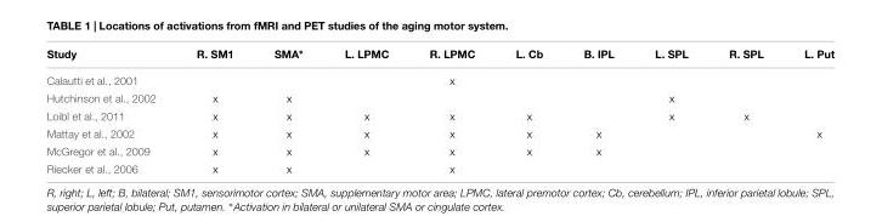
<table><thead><tr><td>Study</td><td>R. SM1</td><td>SMA∗</td><td>L. LPMC</td><td>R. LPMC</td><td>L. Cb</td><td>B. IPL</td><td>L. SPL</td><td>R. SPL</td><td>L. Put</td></tr></thead><tbody><tr><td>Calautti et al., 2001</td><td></td><td></td><td></td><td>x</td><td></td><td></td><td></td><td></td><td></td></tr><tr><td>Hutchinson et al., 2002</td><td>x</td><td>x</td><td></td><td></td><td></td><td></td><td>x</td><td></td><td></td></tr><tr><td>Loibl et al., 2011</td><td>x</td><td>x</td><td>x</td><td>x</td><td>x</td><td></td><td>x</td><td>x</td><td></td></tr><tr><td>Mattay et al., 2002</td><td>x</td><td>x</td><td>x</td><td>x</td><td>x</td><td>x</td><td></td><td></td><td>x</td></tr><tr><td>McGregor et al., 2009</td><td>x</td><td>x</td><td>x</td><td>x</td><td>x</td><td>x</td><td></td><td></td><td></td></tr><tr><td>Riecker et al., 2006</td><td>x</td><td>x</td><td></td><td>x</td><td></td><td></td><td></td><td></td><td></td></tr></tbody></table>